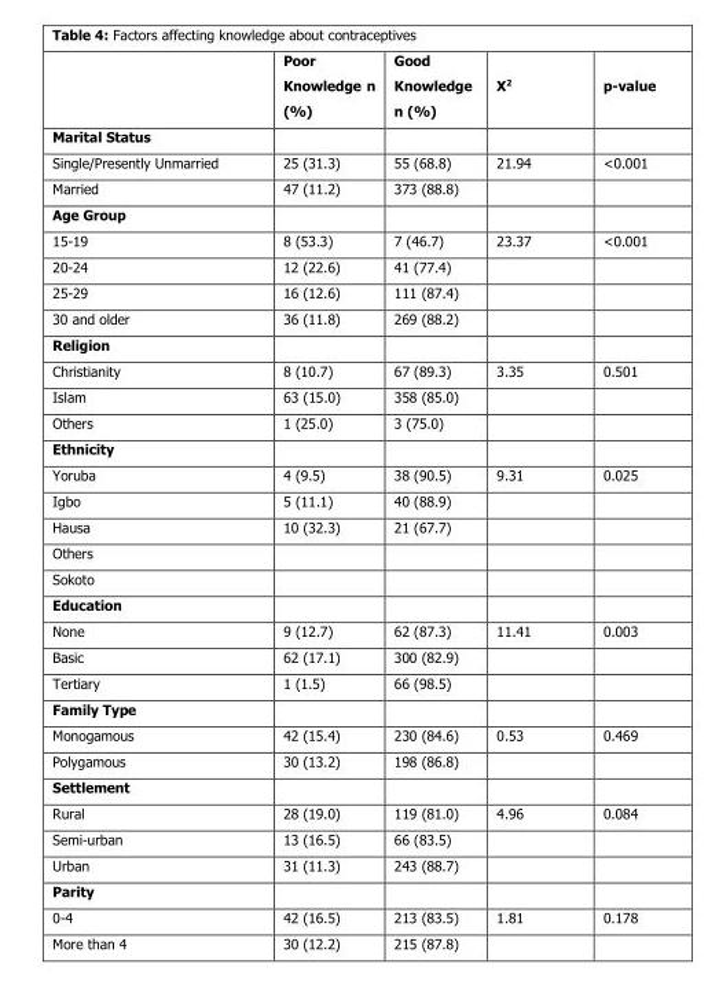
<table><thead><tr><td></td><td>Poor Knowledge n (%)</td><td>Good Knowledge n (%)</td><td>X2</td><td>p-value</td></tr></thead><tbody><tr><td colspan="5">Marital Status</td></tr><tr><td>Single/Presently Unmarried</td><td>25 (31.3)</td><td>55 (68.8)</td><td>21.94</td><td>&lt;0.001</td></tr><tr><td>Married</td><td>47 (11.2)</td><td>373 (88.8)</td><td></td><td></td></tr><tr><td colspan="5">Age Group</td></tr><tr><td>15-19</td><td>8 (53.3)</td><td>7 (46.7)</td><td>23.37</td><td>&lt;0.001</td></tr><tr><td>20-24</td><td>12 (22.6)</td><td>41 (77.4)</td><td></td><td></td></tr><tr><td>25-29</td><td>16 (12.6)</td><td>111 (87.4)</td><td></td><td></td></tr><tr><td>30 and older</td><td>36 (11.8)</td><td>269 (88.2)</td><td></td><td></td></tr><tr><td colspan="5">Religion</td></tr><tr><td>Christianity</td><td>8 (10.7)</td><td>67 (89.3)</td><td>3.35</td><td>0.501</td></tr><tr><td>Islam</td><td>63 (15.0)</td><td>358 (85.0)</td><td></td><td></td></tr><tr><td>Others</td><td>1 (25.0)</td><td>3 (75.0)</td><td></td><td></td></tr><tr><td colspan="5">Ethnicity</td></tr><tr><td>Yoruba</td><td>4 (9.5)</td><td>38 (90.5)</td><td>9.31</td><td>0.025</td></tr><tr><td>Igbo</td><td>5 (11.1)</td><td>40 (88.9)</td><td></td><td></td></tr><tr><td>Hausa</td><td>10 (32.3)</td><td>21 (67.7)</td><td></td><td></td></tr><tr><td colspan="5">Others</td></tr><tr><td colspan="5">Sokoto</td></tr><tr><td colspan="5">Education</td></tr><tr><td>None</td><td>9 (12.7)</td><td>62 (87.3)</td><td>11.41</td><td>0.003</td></tr><tr><td>Basic</td><td>62 (17.1)</td><td>300 (82.9)</td><td></td><td></td></tr><tr><td>Tertiary</td><td>1 (1.5)</td><td>66 (98.5)</td><td></td><td></td></tr><tr><td colspan="5">Family Type</td></tr><tr><td>Monogamous</td><td>42 (15.4)</td><td>230 (84.6)</td><td>0.53</td><td>0.469</td></tr><tr><td>Polygamous</td><td>30 (13.2)</td><td>198 (86.8)</td><td></td><td></td></tr><tr><td colspan="5">Settlement</td></tr><tr><td>Rural</td><td>28 (19.0)</td><td>119 (81.0)</td><td>4.96</td><td>0.084</td></tr><tr><td>Semi-urban</td><td>13 (16.5)</td><td>66 (83.5)</td><td></td><td></td></tr><tr><td>Urban</td><td>31 (11.3)</td><td>243 (88.7)</td><td></td><td></td></tr><tr><td colspan="5">Parity</td></tr><tr><td>0-4</td><td>42 (16.5)</td><td>213 (83.5)</td><td>1.81</td><td>0.178</td></tr><tr><td>More than 4</td><td>30 (12.2)</td><td>215 (87.8)</td><td></td><td></td></tr></tbody></table>